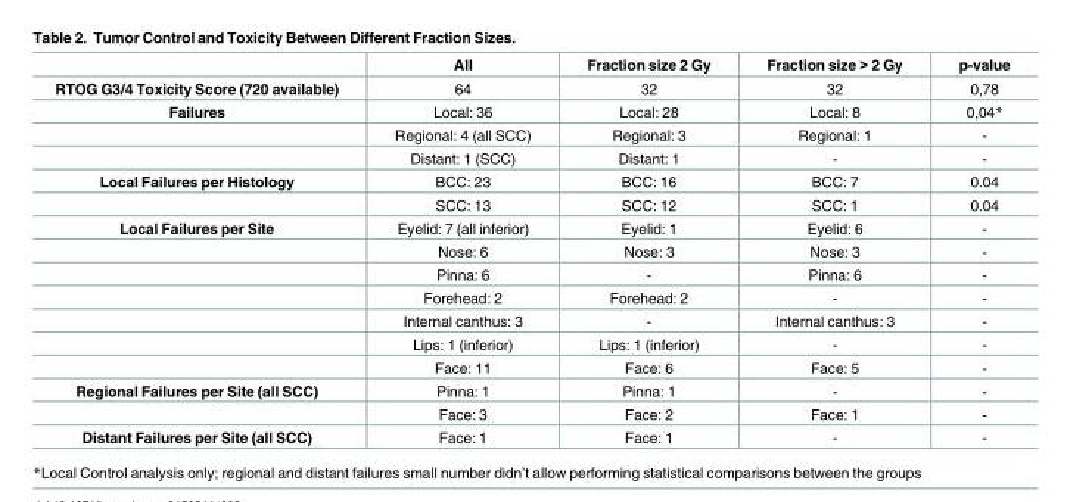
<table><thead><tr><td></td><td>All</td><td>Fraction size 2 Gy</td><td>Fraction size &gt; 2 Gy</td><td>p-value</td></tr></thead><tbody><tr><td>RTOG G3/4 Toxicity Score (720 available)</td><td>64</td><td>32</td><td>32</td><td>0,78</td></tr><tr><td rowspan="3">Failures</td><td>Local: 36</td><td>Local: 28</td><td>Local: 8</td><td>0,04*</td></tr><tr><td>Regional: 4 (all SCC)</td><td>Regional: 3</td><td>Regional: 1</td><td>-</td></tr><tr><td>Distant: 1 (SCC)</td><td>Distant: 1</td><td>-</td><td>-</td></tr><tr><td rowspan="2">Local Failures per Histology</td><td>BCC: 23</td><td>BCC: 16</td><td>BCC: 7</td><td>0.04</td></tr><tr><td>SCC: 13</td><td>SCC: 12</td><td>SCC: 1</td><td>0.04</td></tr><tr><td rowspan="7">Local Failures per Site</td><td>Eyelid: 7 (all inferior)</td><td>Eyelid: 1</td><td>Eyelid: 6</td><td>-</td></tr><tr><td>Nose: 6</td><td>Nose: 3</td><td>Nose: 3</td><td>-</td></tr><tr><td>Pinna: 6</td><td>-</td><td>Pinna: 6</td><td>-</td></tr><tr><td>Forehead: 2</td><td>Forehead: 2</td><td>-</td><td>-</td></tr><tr><td>Internal canthus: 3</td><td>-</td><td>Internal canthus: 3</td><td>-</td></tr><tr><td>Lips: 1 (inferior)</td><td>Lips: 1 (inferior)</td><td>-</td><td>-</td></tr><tr><td>Face: 11</td><td>Face: 6</td><td>Face: 5</td><td>-</td></tr><tr><td rowspan="2">Regional Failures per Site (all SCC)</td><td>Pinna: 1</td><td>Pinna: 1</td><td>-</td><td>-</td></tr><tr><td>Face: 3</td><td>Face: 2</td><td>Face: 1</td><td>-</td></tr><tr><td>Distant Failures per Site (all SCC)</td><td>Face: 1</td><td>Face: 1</td><td>-</td><td>-</td></tr></tbody></table>